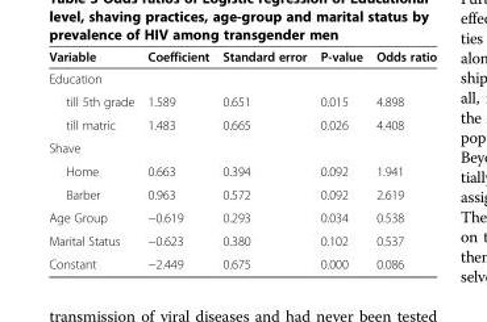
<table><thead><tr><td>Variable</td><td>Coefficient</td><td>Standard error</td><td>P-value</td><td>Odds ratio</td></tr></thead><tbody><tr><td colspan="5">Education</td></tr><tr><td>till 5th grade</td><td>1.589</td><td>0.651</td><td>0.015</td><td>4.898</td></tr><tr><td>till matric</td><td>1.483</td><td>0.665</td><td>0.026</td><td>4.408</td></tr><tr><td colspan="5">Shave</td></tr><tr><td>Home</td><td>0.663</td><td>0.394</td><td>0.092</td><td>1.941</td></tr><tr><td>Barber</td><td>0.963</td><td>0.572</td><td>0.092</td><td>2.619</td></tr><tr><td>Age Group</td><td>−0.619</td><td>0.293</td><td>0.034</td><td>0.538</td></tr><tr><td>Marital Status</td><td>−0.623</td><td>0.380</td><td>0.102</td><td>0.537</td></tr><tr><td>Constant</td><td>−2.449</td><td>0.675</td><td>0.000</td><td>0.086</td></tr></tbody></table>